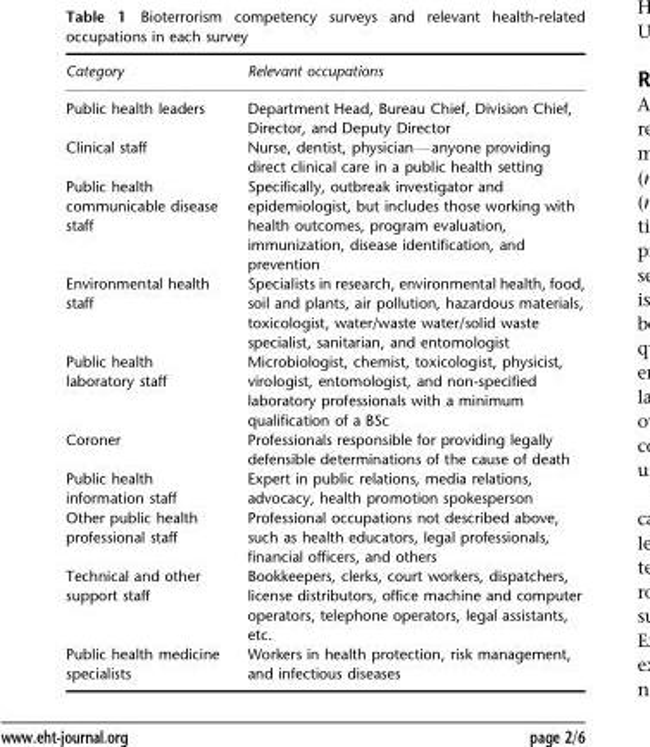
<table><thead><tr><td>Category</td><td>Relevant occupations</td></tr></thead><tbody><tr><td>Public health leaders</td><td>Department Head, Bureau Chief, Division Chief, Director, and Deputy Director</td></tr><tr><td>Clinical staff</td><td>Nurse, dentist, physician—anyone providing direct clinical care in a public health setting</td></tr><tr><td>Public health communicable disease staff</td><td>Specifically, outbreak investigator and epidemiologist, but includes those working with health outcomes, program evaluation, immunization, disease identification, and prevention</td></tr><tr><td>Environmental health staff</td><td>Specialists in research, environmental health, food, soil and plants, air pollution, hazardous materials, toxicologist, water/waste water/solid waste specialist, sanitarian, and entomologist</td></tr><tr><td>Public health laboratory staff</td><td>Microbiologist, chemist, toxicologist, physicist, virologist, entomologist, and non-specified laboratory professionals with a minimum qualification of a BSc</td></tr><tr><td>Coroner</td><td>Professionals responsible for providing legally defensible determinations of the cause of death</td></tr><tr><td>Public health information staff Other public health professional staff</td><td>Expert in public relations, media relations, advocacy, health promotion spokesperson Professional occupations not described above, such as health educators, legal professionals, financial officers, and others</td></tr><tr><td>Technical and other support staff</td><td>Bookkeepers, clerks, court workers, dispatchers, license distributors, office machine and computer operators, telephone operators, legal assistants, etc.</td></tr><tr><td>Public health medicine specialists</td><td>Workers in health protection, risk management, and infectious diseases</td></tr></tbody></table>